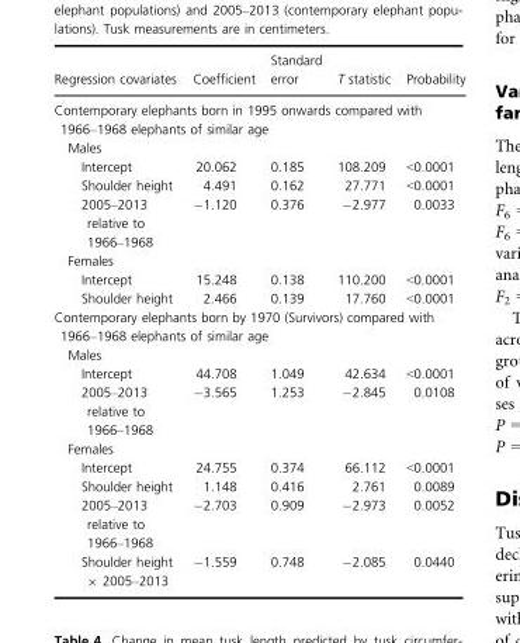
<table><thead><tr><td>Regression covariates</td><td>Coefficient</td><td>Standard error</td><td>T statistic</td><td>Probability</td></tr></thead><tbody><tr><td colspan="5">Contemporary elephants born in 1995 onwards compared with 1966–1968 elephants of similar age</td></tr><tr><td colspan="5">Males</td></tr><tr><td>Intercept</td><td>20.062</td><td>0.185</td><td>108.209</td><td>&lt;0.0001</td></tr><tr><td>Shoulder height</td><td>4.491</td><td>0.162</td><td>27.771</td><td>&lt;0.0001</td></tr><tr><td>2005–2013 relative to 1966–1968</td><td>−1.120</td><td>0.376</td><td>−2.977</td><td>0.0033</td></tr><tr><td colspan="5">Females</td></tr><tr><td>Intercept</td><td>15.248</td><td>0.138</td><td>110.200</td><td>&lt;0.0001</td></tr><tr><td>Shoulder height</td><td>2.466</td><td>0.139</td><td>17.760</td><td>&lt;0.0001</td></tr><tr><td colspan="5">Contemporary elephants born by 1970 (Survivors) compared with 1966–1968 elephants of similar age</td></tr><tr><td colspan="5">Males</td></tr><tr><td>Intercept</td><td>44.708</td><td>1.049</td><td>42.634</td><td>&lt;0.0001</td></tr><tr><td>2005–2013 relative to 1966–1968</td><td>−3.565</td><td>1.253</td><td>−2.845</td><td>0.0108</td></tr><tr><td colspan="5">Females</td></tr><tr><td>Intercept</td><td>24.755</td><td>0.374</td><td>66.112</td><td>&lt;0.0001</td></tr><tr><td>Shoulder height</td><td>1.148</td><td>0.416</td><td>2.761</td><td>0.0089</td></tr><tr><td>2005–2013 relative to 1966–1968</td><td>−2.703</td><td>0.909</td><td>−2.973</td><td>0.0052</td></tr><tr><td>Shoulder height × 2005–2013</td><td>−1.559</td><td>0.748</td><td>−2.085</td><td>0.0440</td></tr></tbody></table>